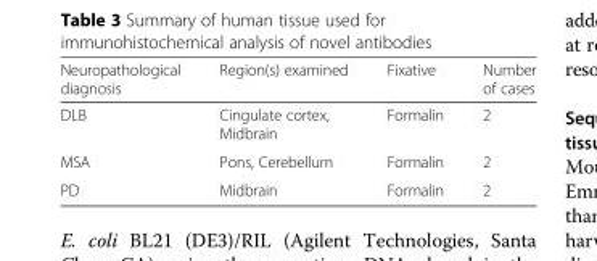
<table><thead><tr><td>Neuropathological diagnosis</td><td>Region(s) examined</td><td>Fixative</td><td>Number of cases</td></tr></thead><tbody><tr><td>DLB</td><td>Cingulate cortex, Midbrain</td><td>Formalin</td><td>2</td></tr><tr><td>MSA</td><td>Pons, Cerebellum</td><td>Formalin</td><td>2</td></tr><tr><td>PD</td><td>Midbrain</td><td>Formalin</td><td>2</td></tr></tbody></table>